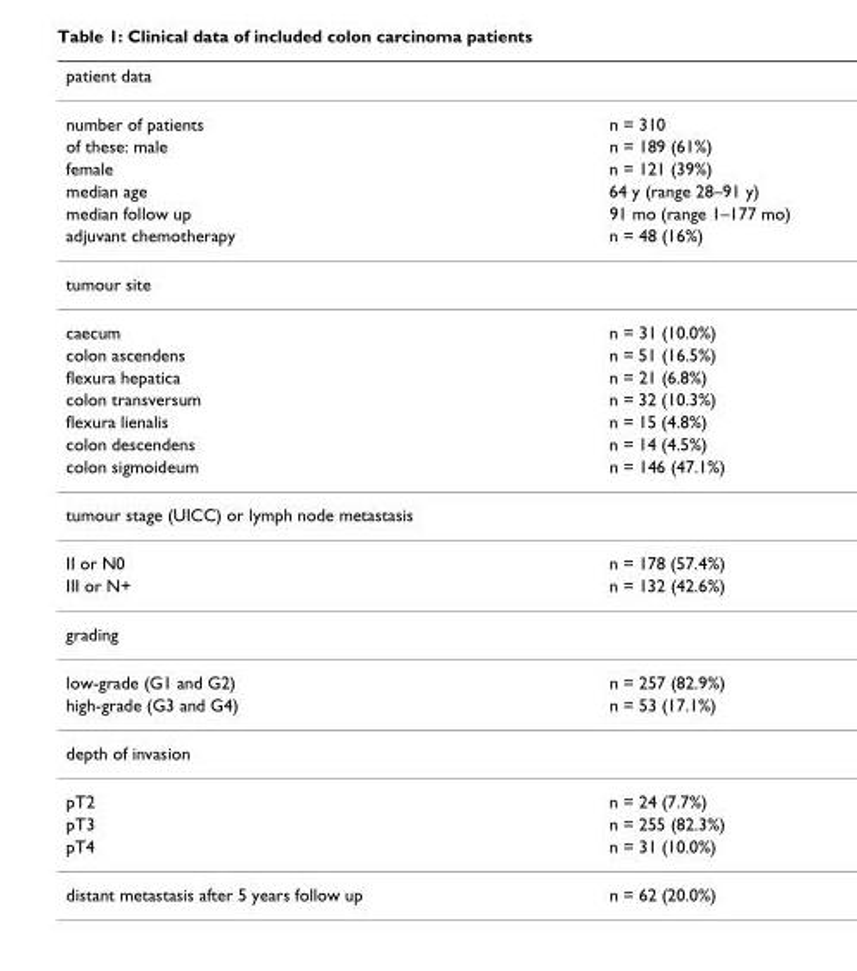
<table><thead><tr><td>patient data</td><td></td></tr></thead><tbody><tr><td>number of patients</td><td>n = 310</td></tr><tr><td>of these: male</td><td>n = 189 (61%)</td></tr><tr><td>female</td><td>n = 121 (39%)</td></tr><tr><td>median age</td><td>64 y (range 28–91 y)</td></tr><tr><td>median follow up</td><td>91 mo (range 1–177 mo)</td></tr><tr><td>adjuvant chemotherapy</td><td>n = 48 (16%)</td></tr><tr><td colspan="2">tumour site</td></tr><tr><td>caecum</td><td>n = 31 (10.0%)</td></tr><tr><td>colon ascendens</td><td>n = 51 (16.5%)</td></tr><tr><td>flexura hepatica</td><td>n = 21 (6.8%)</td></tr><tr><td>colon transversum</td><td>n = 32 (10.3%)</td></tr><tr><td>flexura lienalis</td><td>n = 15 (4.8%)</td></tr><tr><td>colon descendens</td><td>n = 14 (4.5%)</td></tr><tr><td>colon sigmoideum</td><td>n = 146 (47.1%)</td></tr><tr><td colspan="2">tumour stage (UICC) or lymph node metastasis</td></tr><tr><td>II or N0</td><td>n = 178 (57.4%)</td></tr><tr><td>III or N+</td><td>n = 132 (42.6%)</td></tr><tr><td colspan="2">grading</td></tr><tr><td>low-grade (G1 and G2)</td><td>n = 257 (82.9%)</td></tr><tr><td>high-grade (G3 and G4)</td><td>n = 53 (17.1%)</td></tr><tr><td colspan="2">depth of invasion</td></tr><tr><td>pT2</td><td>n = 24 (7.7%)</td></tr><tr><td>pT3</td><td>n = 255 (82.3%)</td></tr><tr><td>pT4</td><td>n = 31 (10.0%)</td></tr><tr><td>distant metastasis after 5 years follow up</td><td>n = 62 (20.0%)</td></tr></tbody></table>